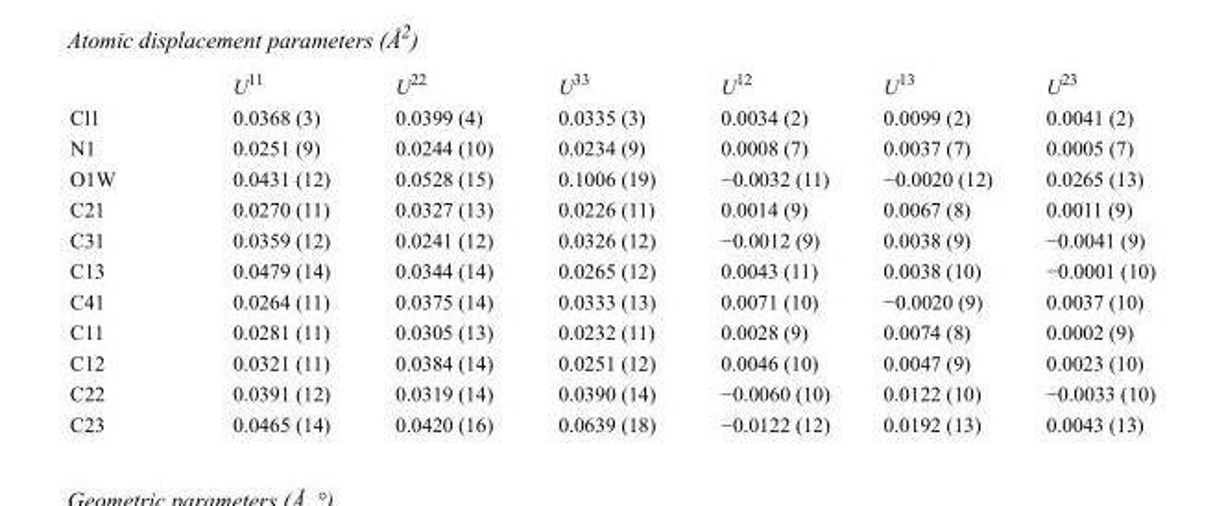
<table><thead><tr><td></td><td>U<sup>11</sup></td><td>U<sup>22</sup></td><td>U<sup>33</sup></td><td>U<sup>12</sup></td><td>U<sup>13</sup></td><td>U<sup>23</sup></td></tr></thead><tbody><tr><td>Cl1</td><td>0.0368 (3)</td><td>0.0399 (4)</td><td>0.0335 (3)</td><td>0.0034 (2)</td><td>0.0099 (2)</td><td>0.0041 (2)</td></tr><tr><td>N1</td><td>0.0251 (9)</td><td>0.0244 (10)</td><td>0.0234 (9)</td><td>0.0008 (7)</td><td>0.0037 (7)</td><td>0.0005 (7)</td></tr><tr><td>O1W</td><td>0.0431 (12)</td><td>0.0528 (15)</td><td>0.1006 (19)</td><td>−0.0032 (11)</td><td>−0.0020 (12)</td><td>0.0265 (13)</td></tr><tr><td>C21</td><td>0.0270 (11)</td><td>0.0327 (13)</td><td>0.0226 (11)</td><td>0.0014 (9)</td><td>0.0067 (8)</td><td>0.0011 (9)</td></tr><tr><td>C31</td><td>0.0359 (12)</td><td>0.0241 (12)</td><td>0.0326 (12)</td><td>−0.0012 (9)</td><td>0.0038 (9)</td><td>−0.0041 (9)</td></tr><tr><td>C13</td><td>0.0479 (14)</td><td>0.0344 (14)</td><td>0.0265 (12)</td><td>0.0043 (11)</td><td>0.0038 (10)</td><td>−0.0001 (10)</td></tr><tr><td>C41</td><td>0.0264 (11)</td><td>0.0375 (14)</td><td>0.0333 (13)</td><td>0.0071 (10)</td><td>−0.0020 (9)</td><td>0.0037 (10)</td></tr><tr><td>C11</td><td>0.0281 (11)</td><td>0.0305 (13)</td><td>0.0232 (11)</td><td>0.0028 (9)</td><td>0.0074 (8)</td><td>0.0002 (9)</td></tr><tr><td>C12</td><td>0.0321 (11)</td><td>0.0384 (14)</td><td>0.0251 (12)</td><td>0.0046 (10)</td><td>0.0047 (9)</td><td>0.0023 (10)</td></tr><tr><td>C22</td><td>0.0391 (12)</td><td>0.0319 (14)</td><td>0.0390 (14)</td><td>−0.0060 (10)</td><td>0.0122 (10)</td><td>−0.0033 (10)</td></tr><tr><td>C23</td><td>0.0465 (14)</td><td>0.0420 (16)</td><td>0.0639 (18)</td><td>−0.0122 (12)</td><td>0.0192 (13)</td><td>0.0043 (13)</td></tr></tbody></table>